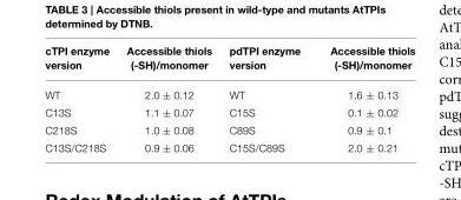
<table><thead><tr><td>cTPI enzyme version</td><td>Accessible thiols (-SH)/monomer</td><td>pdTPI enzyme version</td><td>Accessible thiols (-SH)/monomer</td></tr></thead><tbody><tr><td>WT</td><td>2.0 ± 0.12</td><td>WT</td><td>1.6 ± 0.13</td></tr><tr><td>C13S</td><td>1.1 ± 0.07</td><td>C15S</td><td>0.1 ± 0.02</td></tr><tr><td>C218S</td><td>1.0 ± 0.08</td><td>C89S</td><td>0.9 ± 0.1</td></tr><tr><td>C13S/C218S</td><td>0.9 ± 0.06</td><td>C15S/C89S</td><td>2.0 ± 0.21</td></tr></tbody></table>